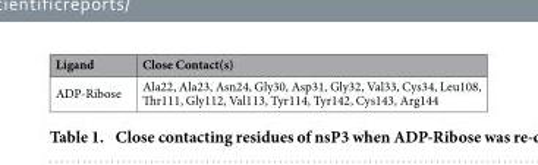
<table><thead><tr><td>Ligand</td><td>Close Contact(s)</td></tr></thead><tbody><tr><td>ADP-Ribose</td><td>Ala22, Ala23, Asn24, Gly30, Asp31, Gly32, Val33, Cys34, Leu108, Thr111, Gly112, Val113, Tyr114, Tyr142, Cys143, Arg144</td></tr></tbody></table>